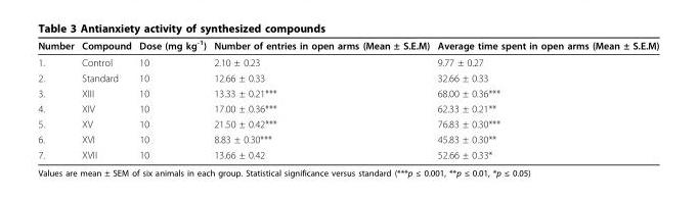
<table><thead><tr><td>Number</td><td>Compound</td><td>Dose (mg kg<sup>-1</sup>)</td><td>Number of entries in open arms (Mean ± S.E.M)</td><td>Average time spent in open arms (Mean ± S.E.M)</td></tr></thead><tbody><tr><td>1.</td><td>Control</td><td>10</td><td>2.10 ± 0.23</td><td>9.77 ± 0.27</td></tr><tr><td>2.</td><td>Standard</td><td>10</td><td>12.66 ± 0.33</td><td>32.66 ± 0.33</td></tr><tr><td>3.</td><td>XIII</td><td>10</td><td>13.33 ± 0.21***</td><td>68.00 ± 0.36***</td></tr><tr><td>4.</td><td>XIV</td><td>10</td><td>17.00 ± 0.36***</td><td>62.33 ± 0.21**</td></tr><tr><td>5.</td><td>XV</td><td>10</td><td>21.50 ± 0.42***</td><td>76.83 ± 0.30***</td></tr><tr><td>6.</td><td>XVI</td><td>10</td><td>8.83 ± 0.30***</td><td>45.83 ± 0.30**</td></tr><tr><td>7.</td><td>XVII</td><td>10</td><td>13.66 ± 0.42</td><td>52.66 ± 0.33*</td></tr></tbody></table>